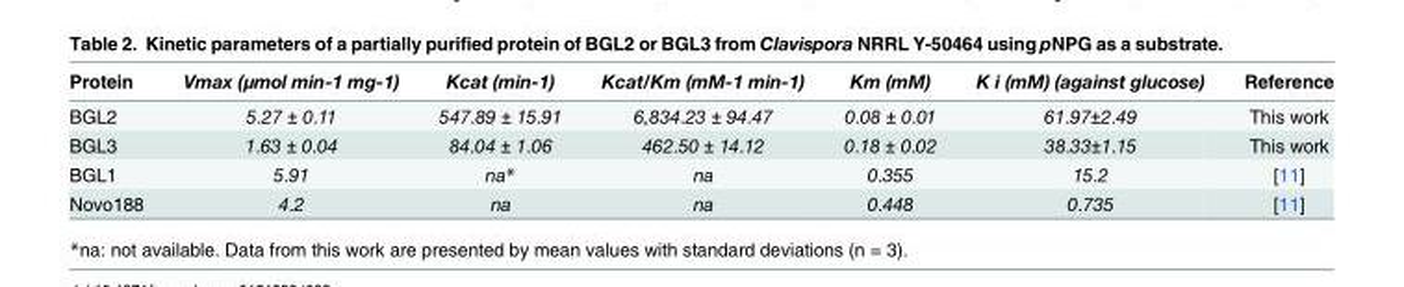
<table><thead><tr><td>Protein</td><td>Vmax (μmol min-1 mg-1)</td><td>Kcat (min-1)</td><td>Kcat/Km (mM-1 min-1)</td><td>Km (mM)</td><td>K i (mM) (against glucose)</td><td>Reference</td></tr></thead><tbody><tr><td>BGL2</td><td>5.27 ± 0.11</td><td>547.89 ± 15.91</td><td>6,834.23 ± 94.47</td><td>0.08 ± 0.01</td><td>61.97±2.49</td><td>This work</td></tr><tr><td>BGL3</td><td>1.63 ± 0.04</td><td>84.04 ± 1.06</td><td>462.50 ± 14.12</td><td>0.18 ± 0.02</td><td>38.33±1.15</td><td>This work</td></tr><tr><td>BGL1</td><td>5.91</td><td>na*</td><td>na</td><td>0.355</td><td>15.2</td><td>[11]</td></tr><tr><td>Novo188</td><td>4.2</td><td>na</td><td>na</td><td>0.448</td><td>0.735</td><td>[11]</td></tr></tbody></table>